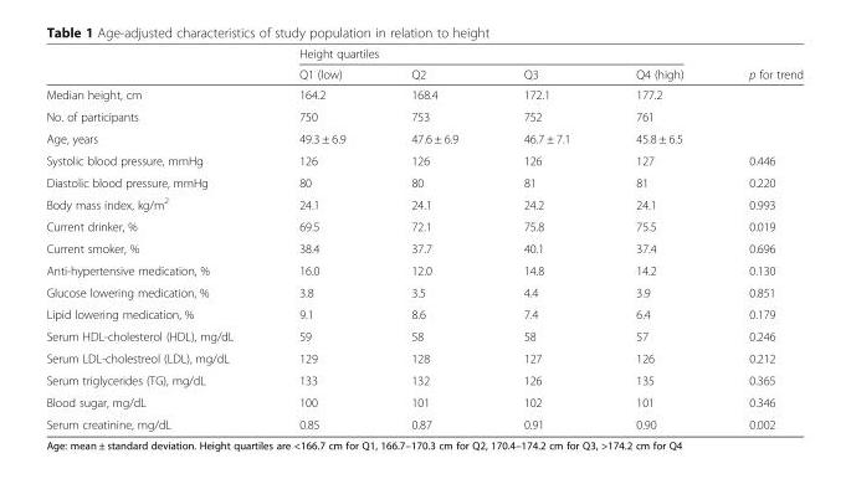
<table><thead><tr><td rowspan="2"></td><td colspan="4">Height quartiles</td><td rowspan="2">p for trend</td></tr><tr><td>Q1 (low)</td><td>Q2</td><td>Q3</td><td>Q4 (high)</td></tr></thead><tbody><tr><td>Median height, cm</td><td>164.2</td><td>168.4</td><td>172.1</td><td>177.2</td><td></td></tr><tr><td>No. of participants</td><td>750</td><td>753</td><td>752</td><td>761</td><td></td></tr><tr><td>Age, years</td><td>49.3 ± 6.9</td><td>47.6 ± 6.9</td><td>46.7 ± 7.1</td><td>45.8 ± 6.5</td><td></td></tr><tr><td>Systolic blood pressure, mmHg</td><td>126</td><td>126</td><td>126</td><td>127</td><td>0.446</td></tr><tr><td>Diastolic blood pressure, mmHg</td><td>80</td><td>80</td><td>81</td><td>81</td><td>0.220</td></tr><tr><td>Body mass index, kg/m<sup>2</sup></td><td>24.1</td><td>24.1</td><td>24.2</td><td>24.1</td><td>0.993</td></tr><tr><td>Current drinker, %</td><td>69.5</td><td>72.1</td><td>75.8</td><td>75.5</td><td>0.019</td></tr><tr><td>Current smoker, %</td><td>38.4</td><td>37.7</td><td>40.1</td><td>37.4</td><td>0.696</td></tr><tr><td>Anti-hypertensive medication, %</td><td>16.0</td><td>12.0</td><td>14.8</td><td>14.2</td><td>0.130</td></tr><tr><td>Glucose lowering medication, %</td><td>3.8</td><td>3.5</td><td>4.4</td><td>3.9</td><td>0.851</td></tr><tr><td>Lipid lowering medication, %</td><td>9.1</td><td>8.6</td><td>7.4</td><td>6.4</td><td>0.179</td></tr><tr><td>Serum HDL-cholesterol (HDL), mg/dL</td><td>59</td><td>58</td><td>58</td><td>57</td><td>0.246</td></tr><tr><td>Serum LDL-cholestreol (LDL), mg/dL</td><td>129</td><td>128</td><td>127</td><td>126</td><td>0.212</td></tr><tr><td>Serum triglycerides (TG), mg/dL</td><td>133</td><td>132</td><td>126</td><td>135</td><td>0.365</td></tr><tr><td>Blood sugar, mg/dL</td><td>100</td><td>101</td><td>102</td><td>101</td><td>0.346</td></tr><tr><td>Serum creatinine, mg/dL</td><td>0.85</td><td>0.87</td><td>0.91</td><td>0.90</td><td>0.002</td></tr></tbody></table>